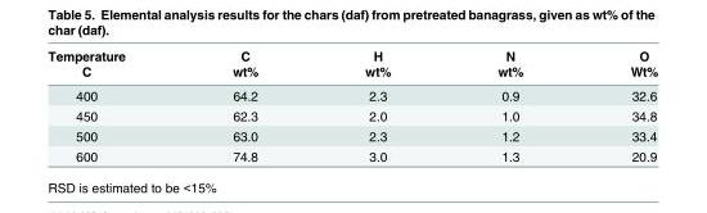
<table><thead><tr><td rowspan="2">Temperature C</td><td rowspan="2">C wt%</td><td rowspan="2">H wt%</td><td rowspan="2">N wt%</td><td rowspan="2">O Wt%</td></tr><tr></tr></thead><tbody><tr><td>400</td><td>64.2</td><td>2.3</td><td>0.9</td><td>32.6</td></tr><tr><td>450</td><td>62.3</td><td>2.0</td><td>1.0</td><td>34.8</td></tr><tr><td>500</td><td>63.0</td><td>2.3</td><td>1.2</td><td>33.4</td></tr><tr><td>600</td><td>74.8</td><td>3.0</td><td>1.3</td><td>20.9</td></tr></tbody></table>